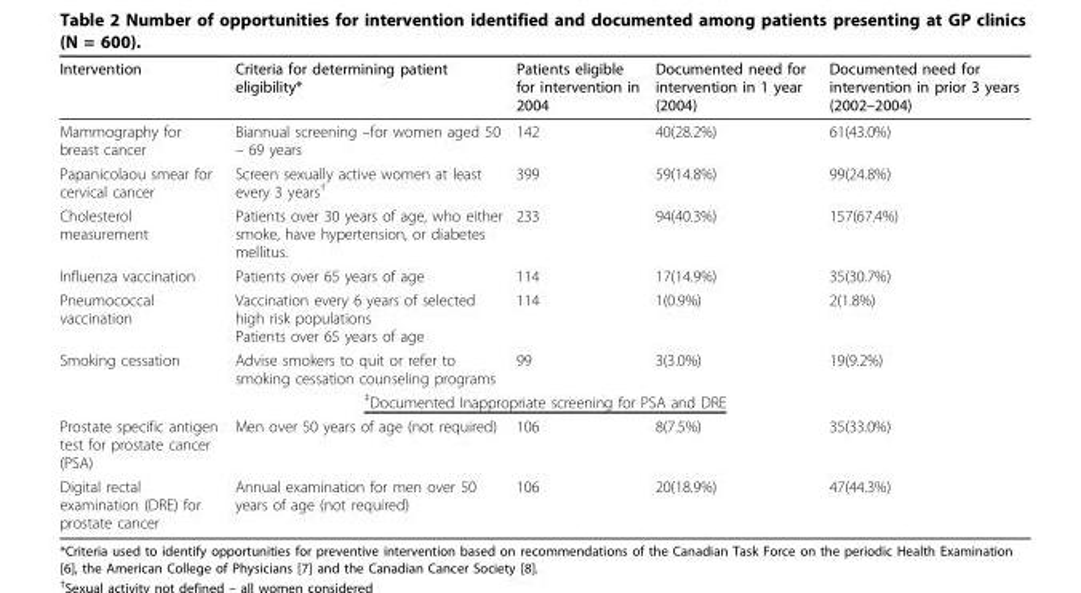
<table><thead><tr><td>Intervention</td><td>Criteria for determining patient eligibility*</td><td>Patients eligible for intervention in 2004</td><td>Documented need for intervention in 1 year (2004)</td><td>Documented need for intervention in prior 3 years (2002–2004)</td></tr></thead><tbody><tr><td>Mammography for breast cancer</td><td>Biannual screening –for women aged 50 – 69 years</td><td>142</td><td>40(28.2%)</td><td>61(43.0%)</td></tr><tr><td>Papanicolaou smear for cervical cancer</td><td>Screen sexually active women at least every 3 years<sup>†</sup></td><td>399</td><td>59(14.8%)</td><td>99(24.8%)</td></tr><tr><td>Cholesterol measurement</td><td>Patients over 30 years of age, who either smoke, have hypertension, or diabetes mellitus.</td><td>233</td><td>94(40.3%)</td><td>157(67.4%)</td></tr><tr><td>Influenza vaccination</td><td>Patients over 65 years of age</td><td>114</td><td>17(14.9%)</td><td>35(30.7%)</td></tr><tr><td>Pneumococcal vaccination</td><td>Vaccination every 6 years of selected high risk populations Patients over 65 years of age</td><td>114</td><td>1(0.9%)</td><td>2(1.8%)</td></tr><tr><td>Smoking cessation</td><td>Advise smokers to quit or refer to smoking cessation counseling programs</td><td>99</td><td>3(3.0%)</td><td>19(9.2%)</td></tr><tr><td colspan="5"><sup>‡</sup>Documented Inappropriate screening for PSA and DRE</td></tr><tr><td>Prostate specific antigen test for prostate cancer (PSA)</td><td>Men over 50 years of age (not required)</td><td>106</td><td>8(7.5%)</td><td>35(33.0%)</td></tr><tr><td>Digital rectal examination (DRE) for prostate cancer</td><td>Annual examination for men over 50 years of age (not required)</td><td>106</td><td>20(18.9%)</td><td>47(44.3%)</td></tr></tbody></table>